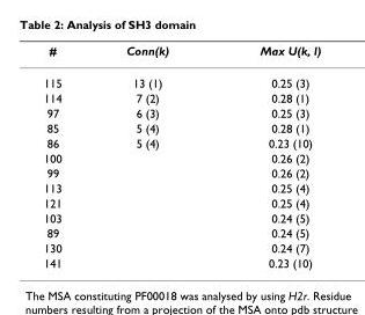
<table><thead><tr><td>#</td><td>Conn(k)</td><td>Max U(k, l)</td></tr></thead><tbody><tr><td>115</td><td>13 (1)</td><td>0.25 (3)</td></tr><tr><td>114</td><td>7 (2)</td><td>0.28 (1)</td></tr><tr><td>97</td><td>6 (3)</td><td>0.25 (3)</td></tr><tr><td>85</td><td>5 (4)</td><td>0.28 (1)</td></tr><tr><td>86</td><td>5 (4)</td><td>0.23 (10)</td></tr><tr><td>100</td><td></td><td>0.26 (2)</td></tr><tr><td>99</td><td></td><td>0.26 (2)</td></tr><tr><td>113</td><td></td><td>0.25 (4)</td></tr><tr><td>121</td><td></td><td>0.25 (4)</td></tr><tr><td>103</td><td></td><td>0.24 (5)</td></tr><tr><td>89</td><td></td><td>0.24 (5)</td></tr><tr><td>130</td><td></td><td>0.24 (7)</td></tr><tr><td>141</td><td></td><td>0.23 (10)</td></tr></tbody></table>